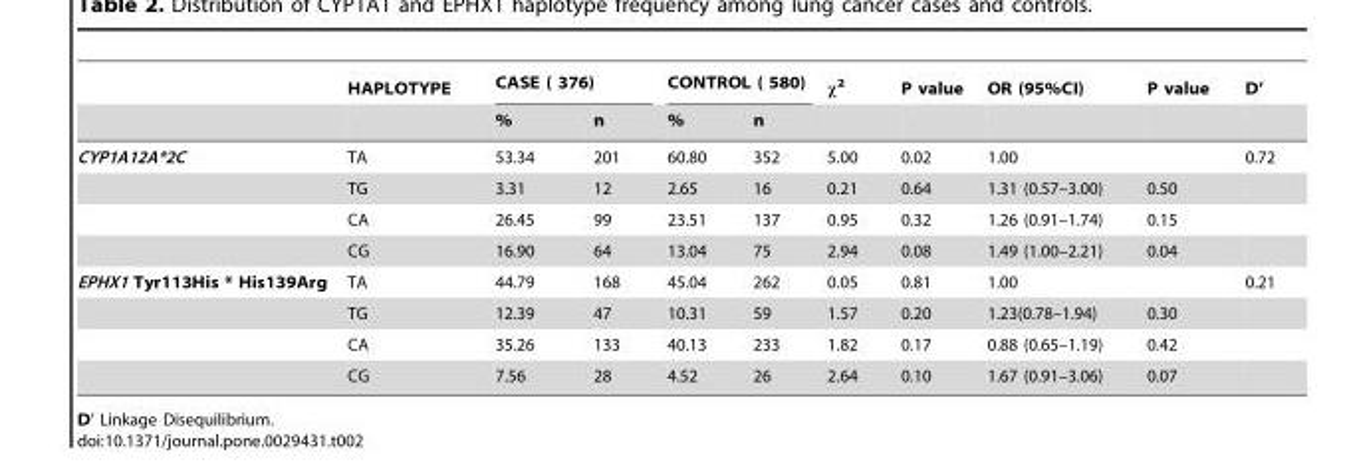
<table><thead><tr><td rowspan="2"></td><td rowspan="2">HAPLOTYPE</td><td colspan="2">CASE ( 376)</td><td colspan="2">CONTROL ( 580)</td><td rowspan="2">χ<sup>2</sup></td><td rowspan="2">P value</td><td rowspan="2">OR (95%CI)</td><td rowspan="2">P value</td><td rowspan="2">D’</td></tr><tr><td>%</td><td>n</td><td>%</td><td>n</td></tr></thead><tbody><tr><td rowspan="4">CYP1A12A*2C</td><td>TA</td><td>53.34</td><td>201</td><td>60.80</td><td>352</td><td>5.00</td><td>0.02</td><td>1.00</td><td></td><td>0.72</td></tr><tr><td>TG</td><td>3.31</td><td>12</td><td>2.65</td><td>16</td><td>0.21</td><td>0.64</td><td>1.31 (0.57–3.00)</td><td>0.50</td><td></td></tr><tr><td>CA</td><td>26.45</td><td>99</td><td>23.51</td><td>137</td><td>0.95</td><td>0.32</td><td>1.26 (0.91–1.74)</td><td>0.15</td><td></td></tr><tr><td>CG</td><td>16.90</td><td>64</td><td>13.04</td><td>75</td><td>2.94</td><td>0.08</td><td>1.49 (1.00–2.21)</td><td>0.04</td><td></td></tr><tr><td rowspan="4">EPHX1 Tyr113His * His139Arg</td><td>TA</td><td>44.79</td><td>168</td><td>45.04</td><td>262</td><td>0.05</td><td>0.81</td><td>1.00</td><td></td><td>0.21</td></tr><tr><td>TG</td><td>12.39</td><td>47</td><td>10.31</td><td>59</td><td>1.57</td><td>0.20</td><td>1.23(0.78–1.94)</td><td>0.30</td><td></td></tr><tr><td>CA</td><td>35.26</td><td>133</td><td>40.13</td><td>233</td><td>1.82</td><td>0.17</td><td>0.88 (0.65–1.19)</td><td>0.42</td><td></td></tr><tr><td>CG</td><td>7.56</td><td>28</td><td>4.52</td><td>26</td><td>2.64</td><td>0.10</td><td>1.67 (0.91–3.06)</td><td>0.07</td><td></td></tr></tbody></table>